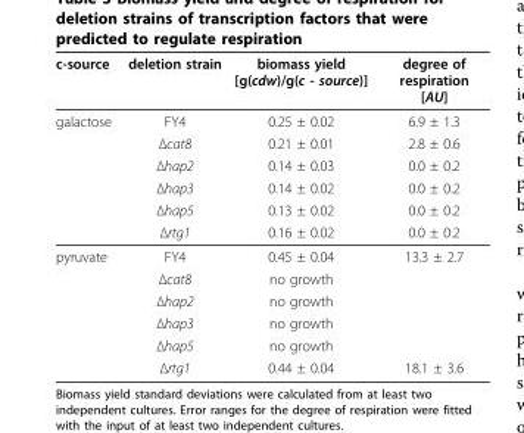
<table><thead><tr><td>c-source</td><td>deletion strain</td><td>biomass yield [g(cdw)/g(c - source)]</td><td>degree of respiration [AU]</td></tr></thead><tbody><tr><td rowspan="6">galactose</td><td>FY4</td><td>0.25 ± 0.02</td><td>6.9 ± 1.3</td></tr><tr><td>Δcat8</td><td>0.21 ± 0.01</td><td>2.8 ± 0.6</td></tr><tr><td>Δhap2</td><td>0.14 ± 0.03</td><td>0.0 ± 0.2</td></tr><tr><td>Δhap3</td><td>0.14 ± 0.02</td><td>0.0 ± 0.2</td></tr><tr><td>Δhap5</td><td>0.13 ± 0.02</td><td>0.0 ± 0.2</td></tr><tr><td>Δrtg1</td><td>0.16 ± 0.02</td><td>0.0 ± 0.2</td></tr><tr><td rowspan="6">pyruvate</td><td>FY4</td><td>0.45 ± 0.04</td><td>13.3 ± 2.7</td></tr><tr><td>Δcat8</td><td>no growth</td><td></td></tr><tr><td>Δhap2</td><td>no growth</td><td></td></tr><tr><td>Δhap3</td><td>no growth</td><td></td></tr><tr><td>Δhap5</td><td>no growth</td><td></td></tr><tr><td>Δrtg1</td><td>0.44 ± 0.04</td><td>18.1 ± 3.6</td></tr></tbody></table>